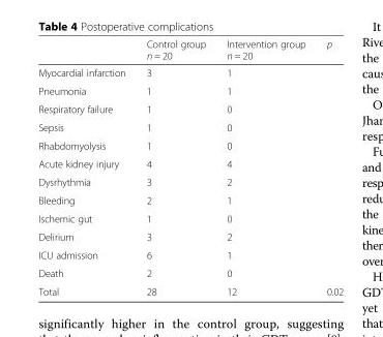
<table><thead><tr><td></td><td>Control group n = 20</td><td>Intervention group n = 20</td><td>p</td></tr></thead><tbody><tr><td>Myocardial infarction</td><td>3</td><td>1</td><td></td></tr><tr><td>Pneumonia</td><td>1</td><td>1</td><td></td></tr><tr><td>Respiratory failure</td><td>1</td><td>0</td><td></td></tr><tr><td>Sepsis</td><td>1</td><td>0</td><td></td></tr><tr><td>Rhabdomyolysis</td><td>1</td><td>0</td><td></td></tr><tr><td>Acute kidney injury</td><td>4</td><td>4</td><td></td></tr><tr><td>Dysrhythmia</td><td>3</td><td>2</td><td></td></tr><tr><td>Bleeding</td><td>2</td><td>1</td><td></td></tr><tr><td>Ischemic gut</td><td>1</td><td>0</td><td></td></tr><tr><td>Delirium</td><td>3</td><td>2</td><td></td></tr><tr><td>ICU admission</td><td>6</td><td>1</td><td></td></tr><tr><td>Death</td><td>2</td><td>0</td><td></td></tr><tr><td>Total</td><td>28</td><td>12</td><td>0.02</td></tr></tbody></table>